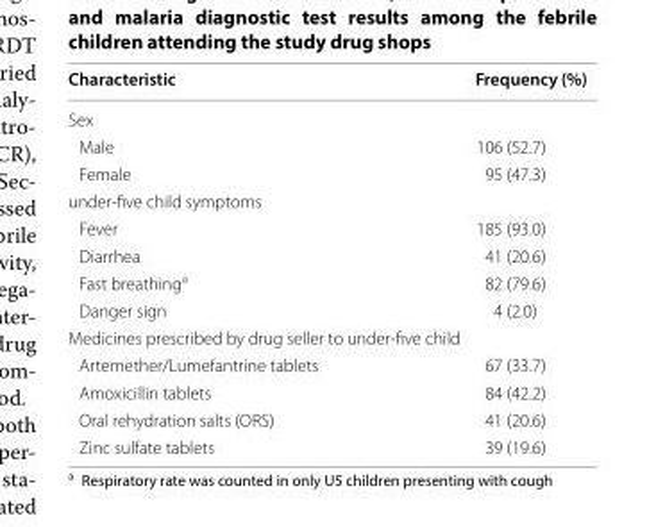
<table><thead><tr><td>Characteristic</td><td>Frequency (%)</td></tr></thead><tbody><tr><td colspan="2">Sex</td></tr><tr><td>Male</td><td>106 (52.7)</td></tr><tr><td>Female</td><td>95 (47.3)</td></tr><tr><td colspan="2">under-five child symptoms</td></tr><tr><td>Fever</td><td>185 (93.0)</td></tr><tr><td>Diarrhea</td><td>41 (20.6)</td></tr><tr><td>Fast breathing<sup>a</sup></td><td>82 (79.6)</td></tr><tr><td>Danger sign</td><td>4 (2.0)</td></tr><tr><td colspan="2">Medicines prescribed by drug seller to under-five child</td></tr><tr><td>Artemether/Lumefantrine tablets</td><td>67 (33.7)</td></tr><tr><td>Amoxicillin tablets</td><td>84 (42.2)</td></tr><tr><td>Oral rehydration salts (ORS)</td><td>41 (20.6)</td></tr><tr><td>Zinc sulfate tablets</td><td>39 (19.6)</td></tr></tbody></table>